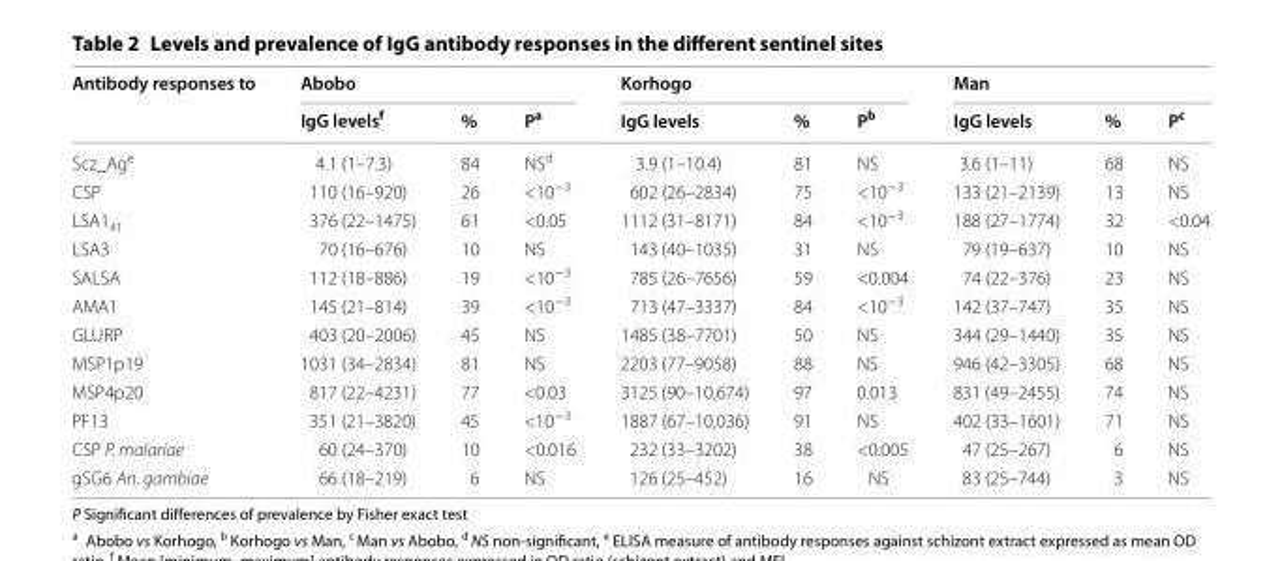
<table><thead><tr><td rowspan="2">Antibody responses to</td><td colspan="3">Abobo</td><td colspan="3">Korhogo</td><td colspan="3">Man</td></tr><tr><td>IgG levels<sup>f</sup></td><td>%</td><td>P<sup>a</sup></td><td>IgG levels</td><td>%</td><td>P<sup>b</sup></td><td>IgG levels</td><td>%</td><td>P<sup>c</sup></td></tr></thead><tbody><tr><td>Scz_Ag<sup>e</sup></td><td>4.1 (1–7.3)</td><td>84</td><td>NS<sup>d</sup></td><td>3.9 (1–10.4)</td><td>81</td><td>NS</td><td>3.6 (1–11)</td><td>68</td><td>NS</td></tr><tr><td>CSP</td><td>110 (16–920)</td><td>26</td><td>&lt;10<sup>−3</sup></td><td>602 (26–2834)</td><td>75</td><td>&lt;10<sup>−3</sup></td><td>133 (21–2139)</td><td>13</td><td>NS</td></tr><tr><td>LSA1<sub>41</sub></td><td>376 (22–1475)</td><td>61</td><td>&lt;0.05</td><td>1112 (31–8171)</td><td>84</td><td>&lt;10<sup>−3</sup></td><td>188 (27–1774)</td><td>32</td><td>&lt;0.04</td></tr><tr><td>LSA3</td><td>70 (16–676)</td><td>10</td><td>NS</td><td>143 (40–1035)</td><td>31</td><td>NS</td><td>79 (19–637)</td><td>10</td><td>NS</td></tr><tr><td>SALSA</td><td>112 (18–886)</td><td>19</td><td>&lt;10<sup>−3</sup></td><td>785 (26–7656)</td><td>59</td><td>&lt;0.004</td><td>74 (22–376)</td><td>23</td><td>NS</td></tr><tr><td>AMA1</td><td>145 (21–814)</td><td>39</td><td>&lt;10<sup>−3</sup></td><td>713 (47–3337)</td><td>84</td><td>&lt;10<sup>−3</sup></td><td>142 (37–747)</td><td>35</td><td>NS</td></tr><tr><td>GLURP</td><td>403 (20–2006)</td><td>45</td><td>NS</td><td>1485 (38–7701)</td><td>50</td><td>NS</td><td>344 (29–1440)</td><td>35</td><td>NS</td></tr><tr><td>MSP1p19</td><td>1031 (34–2834)</td><td>81</td><td>NS</td><td>2203 (77–9058)</td><td>88</td><td>NS</td><td>946 (42–3305)</td><td>68</td><td>NS</td></tr><tr><td>MSP4p20</td><td>817 (22–4231)</td><td>77</td><td>&lt;0.03</td><td>3125 (90–10,674)</td><td>97</td><td>0.013</td><td>831 (49–2455)</td><td>74</td><td>NS</td></tr><tr><td>PF13</td><td>351 (21–3820)</td><td>45</td><td>&lt;10<sup>−3</sup></td><td>1887 (67–10,036)</td><td>91</td><td>NS</td><td>402 (33–1601)</td><td>71</td><td>NS</td></tr><tr><td>CSP P. malariae</td><td>60 (24–370)</td><td>10</td><td>&lt;0.016</td><td>232 (33–3202)</td><td>38</td><td>&lt;0.005</td><td>47 (25–267)</td><td>6</td><td>NS</td></tr><tr><td>gSG6 An. gambiae</td><td>66 (18–219)</td><td>6</td><td>NS</td><td>126 (25–452)</td><td>16</td><td>NS</td><td>83 (25–744)</td><td>3</td><td>NS</td></tr></tbody></table>